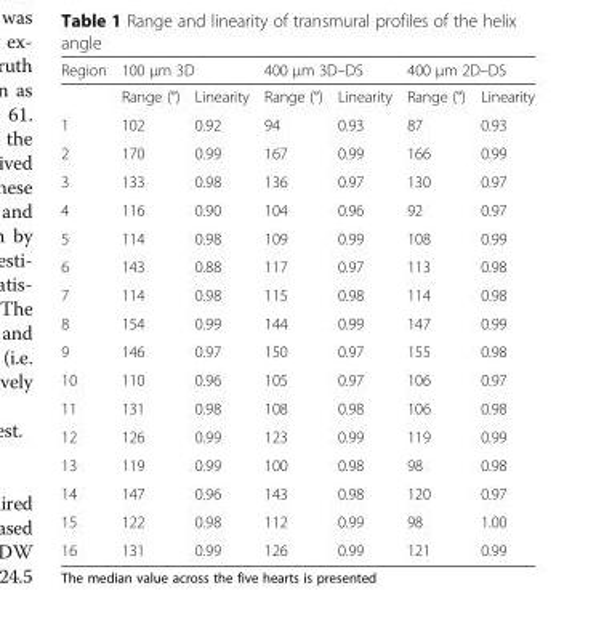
<table><thead><tr><td rowspan="2">Region</td><td colspan="2">100 μm 3D</td><td colspan="2">400 μm 3D–DS</td><td colspan="2">400 μm 2D–DS</td></tr><tr><td>Range (°)</td><td>Linearity</td><td>Range (°)</td><td>Linearity</td><td>Range (°)</td><td>Linearity</td></tr></thead><tbody><tr><td>1</td><td>102</td><td>0.92</td><td>94</td><td>0.93</td><td>87</td><td>0.93</td></tr><tr><td>2</td><td>170</td><td>0.99</td><td>167</td><td>0.99</td><td>166</td><td>0.99</td></tr><tr><td>3</td><td>133</td><td>0.98</td><td>136</td><td>0.97</td><td>130</td><td>0.97</td></tr><tr><td>4</td><td>116</td><td>0.90</td><td>104</td><td>0.96</td><td>92</td><td>0.97</td></tr><tr><td>5</td><td>114</td><td>0.98</td><td>109</td><td>0.99</td><td>108</td><td>0.99</td></tr><tr><td>6</td><td>143</td><td>0.88</td><td>117</td><td>0.97</td><td>113</td><td>0.98</td></tr><tr><td>7</td><td>114</td><td>0.98</td><td>115</td><td>0.98</td><td>114</td><td>0.98</td></tr><tr><td>8</td><td>154</td><td>0.99</td><td>144</td><td>0.99</td><td>147</td><td>0.99</td></tr><tr><td>9</td><td>146</td><td>0.97</td><td>150</td><td>0.97</td><td>155</td><td>0.98</td></tr><tr><td>10</td><td>110</td><td>0.96</td><td>105</td><td>0.97</td><td>106</td><td>0.97</td></tr><tr><td>11</td><td>131</td><td>0.98</td><td>108</td><td>0.98</td><td>106</td><td>0.98</td></tr><tr><td>12</td><td>126</td><td>0.99</td><td>123</td><td>0.99</td><td>119</td><td>0.99</td></tr><tr><td>13</td><td>119</td><td>0.99</td><td>100</td><td>0.98</td><td>98</td><td>0.98</td></tr><tr><td>14</td><td>147</td><td>0.96</td><td>143</td><td>0.98</td><td>120</td><td>0.97</td></tr><tr><td>15</td><td>122</td><td>0.98</td><td>112</td><td>0.99</td><td>98</td><td>1.00</td></tr><tr><td>16</td><td>131</td><td>0.99</td><td>126</td><td>0.99</td><td>121</td><td>0.99</td></tr></tbody></table>